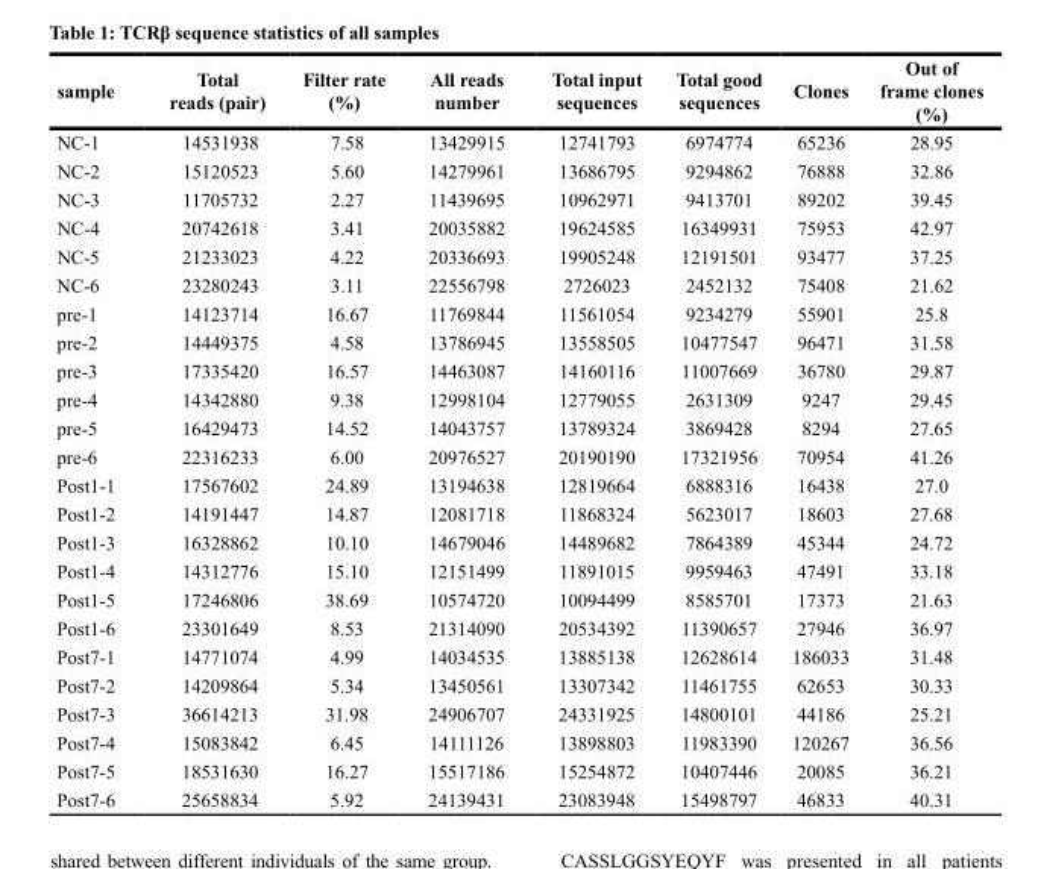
<table><thead><tr><td>sample</td><td>total reads (pair)</td><td>Filter rate (%)</td><td>All reads number</td><td>Total input sequences</td><td>total good sequences</td><td>clones</td><td>Out of frame clones (%)</td></tr></thead><tbody><tr><td>NC-1</td><td>14531938</td><td>7.58</td><td>13429915</td><td>12741793</td><td>6974774</td><td>65236</td><td>28.95</td></tr><tr><td>NC-2</td><td>15120523</td><td>5.60</td><td>14279961</td><td>13686795</td><td>9294862</td><td>76888</td><td>32.86</td></tr><tr><td>NC-3</td><td>11705732</td><td>2.27</td><td>11439695</td><td>10962971</td><td>9413701</td><td>89202</td><td>39.45</td></tr><tr><td>NC-4</td><td>20742618</td><td>3.41</td><td>20035882</td><td>19624585</td><td>16349931</td><td>75953</td><td>42.97</td></tr><tr><td>NC-5</td><td>21233023</td><td>4.22</td><td>20336693</td><td>19905248</td><td>12191501</td><td>93477</td><td>37.25</td></tr><tr><td>NC-6</td><td>23280243</td><td>3.11</td><td>22556798</td><td>2726023</td><td>2452132</td><td>75408</td><td>21.62</td></tr><tr><td>pre-1</td><td>14123714</td><td>16.67</td><td>11769844</td><td>11561054</td><td>9234279</td><td>55901</td><td>25.8</td></tr><tr><td>pre-2</td><td>14449375</td><td>4.58</td><td>13786945</td><td>13558505</td><td>10477547</td><td>96471</td><td>31.58</td></tr><tr><td>pre-3</td><td>17335420</td><td>16.57</td><td>14463087</td><td>14160116</td><td>11007669</td><td>36780</td><td>29.87</td></tr><tr><td>pre-4</td><td>14342880</td><td>9.38</td><td>12998104</td><td>12779055</td><td>2631309</td><td>9247</td><td>29.45</td></tr><tr><td>pre-5</td><td>16429473</td><td>14.52</td><td>14043757</td><td>13789324</td><td>3869428</td><td>8294</td><td>27.65</td></tr><tr><td>pre-6</td><td>22316233</td><td>6.00</td><td>20976527</td><td>20190190</td><td>17321956</td><td>70954</td><td>41.26</td></tr><tr><td>Post1-1</td><td>17567602</td><td>24.89</td><td>13194638</td><td>12819664</td><td>6888316</td><td>16438</td><td>27.0</td></tr><tr><td>Post1-2</td><td>14191447</td><td>14.87</td><td>12081718</td><td>11868324</td><td>5623017</td><td>18603</td><td>27.68</td></tr><tr><td>Post1-3</td><td>16328862</td><td>10.10</td><td>14679046</td><td>14489682</td><td>7864389</td><td>45344</td><td>24.72</td></tr><tr><td>Post1-4</td><td>14312776</td><td>15.10</td><td>12151499</td><td>11891015</td><td>9959463</td><td>47491</td><td>33.18</td></tr><tr><td>Post1-5</td><td>17246806</td><td>38.69</td><td>10574720</td><td>10094499</td><td>8585701</td><td>17373</td><td>21.63</td></tr><tr><td>Post1-6</td><td>23301649</td><td>8.53</td><td>21314090</td><td>20534392</td><td>11390657</td><td>27946</td><td>36.97</td></tr><tr><td>Post7-1</td><td>14771074</td><td>4.99</td><td>14034535</td><td>13885138</td><td>12628614</td><td>186033</td><td>31.48</td></tr><tr><td>Post7-2</td><td>14209864</td><td>5.34</td><td>13450561</td><td>13307342</td><td>11461755</td><td>62653</td><td>30.33</td></tr><tr><td>Post7-3</td><td>36614213</td><td>31.98</td><td>24906707</td><td>24331925</td><td>14800101</td><td>44186</td><td>25.21</td></tr><tr><td>Post7-4</td><td>15083842</td><td>6.45</td><td>14111126</td><td>13898803</td><td>11983390</td><td>120267</td><td>36.56</td></tr><tr><td>Post7-5</td><td>18531630</td><td>16.27</td><td>15517186</td><td>15254872</td><td>10407446</td><td>20085</td><td>36.21</td></tr><tr><td>Post7-6</td><td>25658834</td><td>5.92</td><td>24139431</td><td>23083948</td><td>15498797</td><td>46833</td><td>40.31</td></tr></tbody></table>